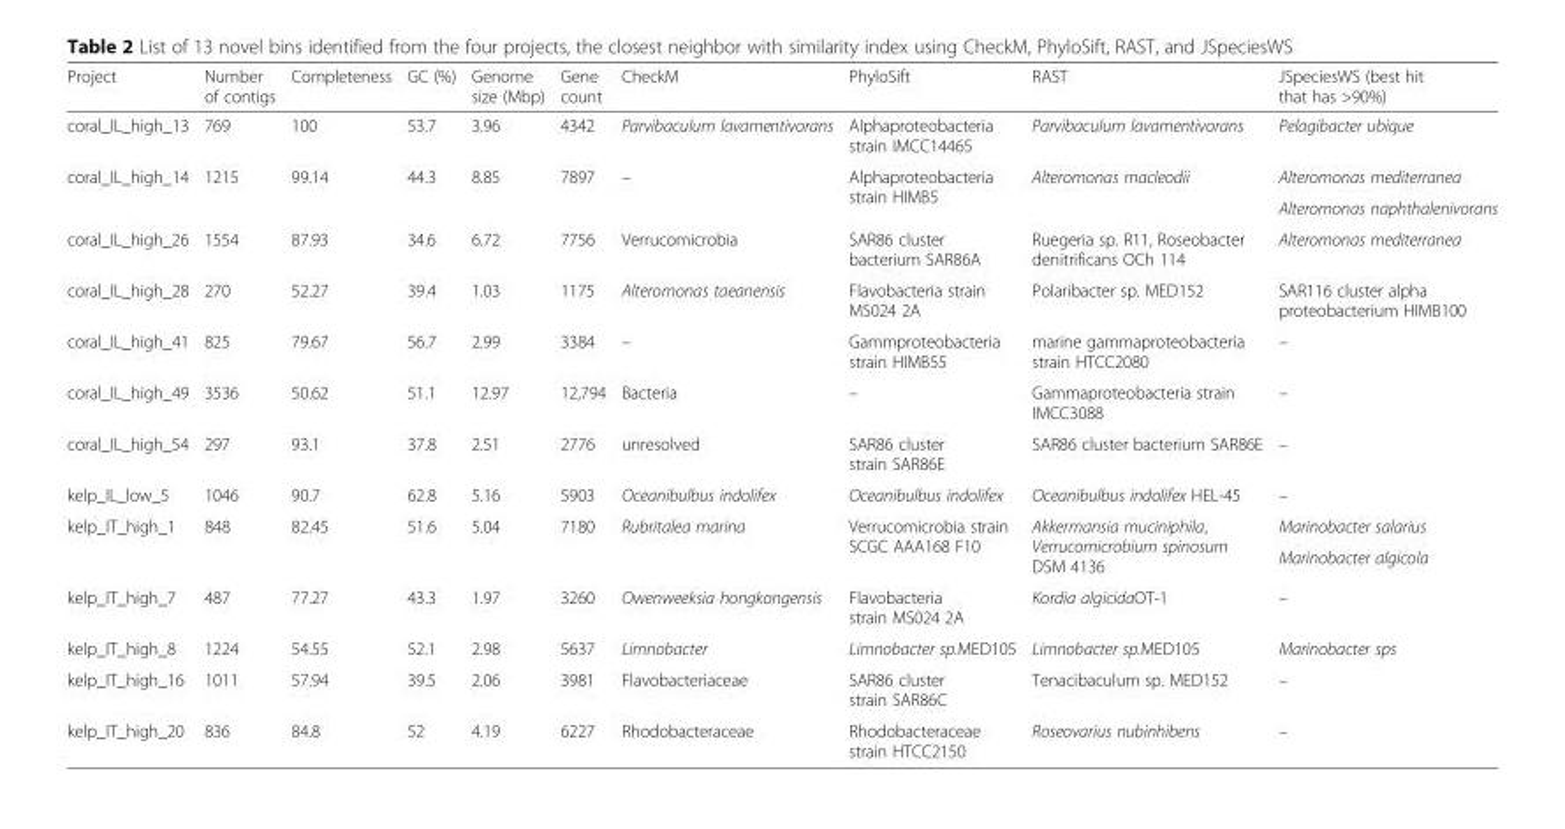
<table><thead><tr><td>Project</td><td>Number of contigs</td><td>Completeness</td><td>GC (%)</td><td>Genome size (Mbp)</td><td>Gene count</td><td>CheckM</td><td>PhyloSift</td><td>RAST</td><td>JSpeciesWS (best hit that has &gt;90%)</td></tr></thead><tbody><tr><td>coral_IL_high_13</td><td>769</td><td>100</td><td>53.7</td><td>3.96</td><td>4342</td><td>Parvibaculum lavamentivorans</td><td>Alphaproteobacteria strain IMCC14465</td><td>Parvibaculum lavamentivorans</td><td>Pelagibacter ubique</td></tr><tr><td rowspan="2">coral_IL_high_14</td><td rowspan="2">1215</td><td rowspan="2">99.14</td><td rowspan="2">44.3</td><td rowspan="2">8.85</td><td rowspan="2">7897</td><td rowspan="2">–</td><td rowspan="2">Alphaproteobacteria strain HIMB5</td><td rowspan="2">Alteromonas macleodii</td><td>Alteromonas mediterranea</td></tr><tr><td>Alteromonas naphthalenivorans</td></tr><tr><td>coral_IL_high_26</td><td>1554</td><td>87.93</td><td>34.6</td><td>6.72</td><td>7756</td><td>Verrucomicrobia</td><td>SAR86 cluster bacterium SAR86A</td><td>Ruegeria sp. R11, Roseobacter denitrificans OCh 114</td><td>Alteromonas mediterranea</td></tr><tr><td>coral_IL_high_28</td><td>270</td><td>52.27</td><td>39.4</td><td>1.03</td><td>1175</td><td>Alteromonas taeanensis</td><td>Flavobacteria strain MS024 2A</td><td>Polaribacter sp. MED152</td><td>SAR116 cluster alpha proteobacterium HIMB100</td></tr><tr><td>coral_IL_high_41</td><td>825</td><td>79.67</td><td>56.7</td><td>2.99</td><td>3384</td><td>–</td><td>Gammproteobacteria strain HIMB55</td><td>marine gammaproteobacteria strain HTCC2080</td><td>–</td></tr><tr><td>coral_IL_high_49</td><td>3536</td><td>50.62</td><td>51.1</td><td>12.97</td><td>12,794</td><td>Bacteria</td><td>–</td><td>Gammaproteobacteria strain IMCC3088</td><td>–</td></tr><tr><td>coral_IL_high_54</td><td>297</td><td>93.1</td><td>37.8</td><td>2.51</td><td>2776</td><td>unresolved</td><td>SAR86 cluster strain SAR86E</td><td>SAR86 cluster bacterium SAR86E</td><td>–</td></tr><tr><td>kelp_IL_low_5</td><td>1046</td><td>90.7</td><td>62.8</td><td>5.16</td><td>5903</td><td>Oceanibulbus indolifex</td><td>Oceanibulbus indolifex</td><td>Oceanibulbus indolifex HEL-45</td><td>–</td></tr><tr><td rowspan="2">kelp_IT_high_1</td><td rowspan="2">848</td><td rowspan="2">82.45</td><td rowspan="2">51.6</td><td rowspan="2">5.04</td><td rowspan="2">7180</td><td rowspan="2">Rubritalea marina</td><td rowspan="2">Verrucomicrobia strain SCGC AAA168 F10</td><td rowspan="2">Akkermansia muciniphila, Verrucomicrobium spinosum DSM 4136</td><td>Marinobacter salarius</td></tr><tr><td>Marinobacter algicola</td></tr><tr><td>kelp_IT_high_7</td><td>487</td><td>77.27</td><td>43.3</td><td>1.97</td><td>3260</td><td>Owenweeksia hongkongensis</td><td>Flavobacteria strain MS024 2A</td><td>Kordia algicidaOT-1</td><td>–</td></tr><tr><td>kelp_IT_high_8</td><td>1224</td><td>54.55</td><td>52.1</td><td>2.98</td><td>5637</td><td>Limnobacter</td><td>Limnobacter sp.MED105</td><td>Limnobacter sp.MED105</td><td>Marinobacter sps</td></tr><tr><td>kelp_IT_high_16</td><td>1011</td><td>57.94</td><td>39.5</td><td>2.06</td><td>3981</td><td>Flavobacteriaceae</td><td>SAR86 cluster strain SAR86C</td><td>Tenacibaculum sp. MED152</td><td>–</td></tr><tr><td>kelp_IT_high_20</td><td>836</td><td>84.8</td><td>52</td><td>4.19</td><td>6227</td><td>Rhodobacteraceae</td><td>Rhodobacteraceae strain HTCC2150</td><td>Roseovarius nubinhibens</td><td>–</td></tr></tbody></table>